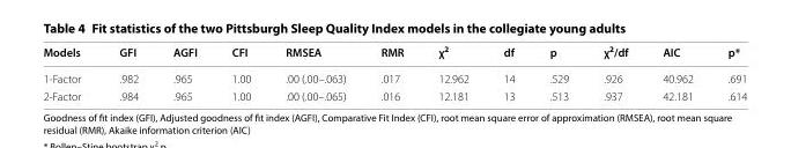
<table><thead><tr><td>Models</td><td>GFI</td><td>AGFI</td><td>CFI</td><td>RMSEA</td><td>RMR</td><td>χ<sup>2</sup></td><td>df</td><td>p</td><td>χ<sup>2</sup>/df</td><td>AIC</td><td>p*</td></tr></thead><tbody><tr><td>1‑Factor</td><td>.982</td><td>.965</td><td>1.00</td><td>.00 (.00–.063)</td><td>.017</td><td>12.962</td><td>14</td><td>.529</td><td>.926</td><td>40.962</td><td>.691</td></tr><tr><td>2‑Factor</td><td>.984</td><td>.965</td><td>1.00</td><td>.00 (.00–.065)</td><td>.016</td><td>12.181</td><td>13</td><td>.513</td><td>.937</td><td>42.181</td><td>.614</td></tr></tbody></table>